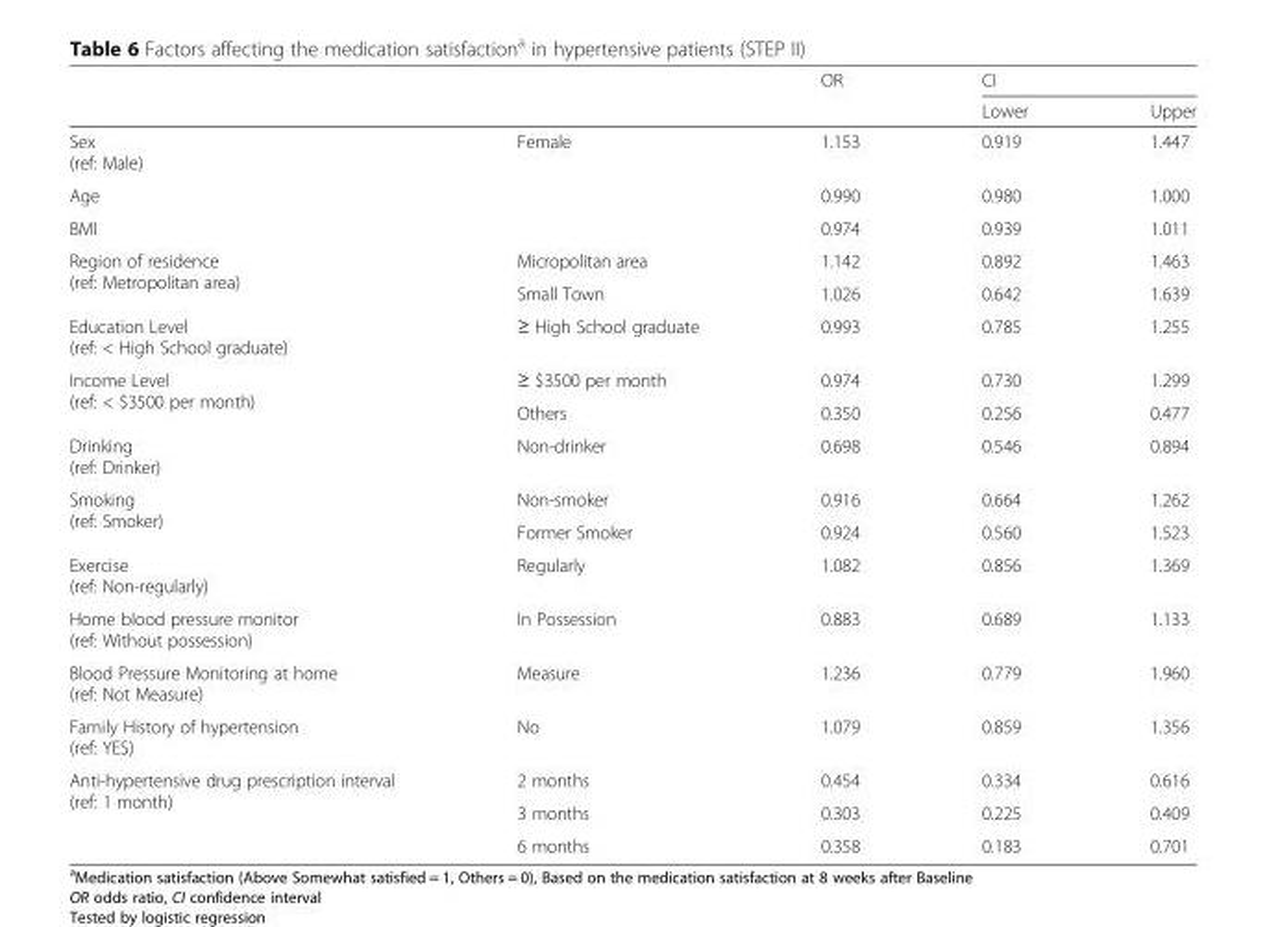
<table><thead><tr><td rowspan="2"></td><td rowspan="2"></td><td rowspan="2">OR</td><td colspan="2">CI</td></tr><tr><td>Lower</td><td>Upper</td></tr></thead><tbody><tr><td>Sex (ref: Male)</td><td>Female</td><td>1.153</td><td>0.919</td><td>1.447</td></tr><tr><td>Age</td><td></td><td>0.990</td><td>0.980</td><td>1.000</td></tr><tr><td>BMI</td><td></td><td>0.974</td><td>0.939</td><td>1.011</td></tr><tr><td rowspan="2">Region of residence (ref: Metropolitan area)</td><td>Micropolitan area</td><td>1.142</td><td>0.892</td><td>1.463</td></tr><tr><td>Small Town</td><td>1.026</td><td>0.642</td><td>1.639</td></tr><tr><td>Education Level (ref: &lt; High School graduate)</td><td>≥ High School graduate</td><td>0.993</td><td>0.785</td><td>1.255</td></tr><tr><td rowspan="2">Income Level (ref: &lt; $3500 per month)</td><td>≥ $3500 per month</td><td>0.974</td><td>0.730</td><td>1.299</td></tr><tr><td>Others</td><td>0.350</td><td>0.256</td><td>0.477</td></tr><tr><td>Drinking (ref: Drinker)</td><td>Non-drinker</td><td>0.698</td><td>0.546</td><td>0.894</td></tr><tr><td rowspan="2">Smoking (ref: Smoker)</td><td>Non-smoker</td><td>0.916</td><td>0.664</td><td>1.262</td></tr><tr><td>Former Smoker</td><td>0.924</td><td>0.560</td><td>1.523</td></tr><tr><td>Exercise (ref: Non-regularly)</td><td>Regularly</td><td>1.082</td><td>0.856</td><td>1.369</td></tr><tr><td>Home blood pressure monitor (ref: Without possession)</td><td>In Possession</td><td>0.883</td><td>0.689</td><td>1.133</td></tr><tr><td>Blood Pressure Monitoring at home (ref: Not Measure)</td><td>Measure</td><td>1.236</td><td>0.779</td><td>1.960</td></tr><tr><td>Family History of hypertension (ref: YES)</td><td>No</td><td>1.079</td><td>0.859</td><td>1.356</td></tr><tr><td rowspan="3">Anti-hypertensive drug prescription interval (ref: 1 month)</td><td>2 months</td><td>0.454</td><td>0.334</td><td>0.616</td></tr><tr><td>3 months</td><td>0.303</td><td>0.225</td><td>0.409</td></tr><tr><td>6 months</td><td>0.358</td><td>0.183</td><td>0.701</td></tr></tbody></table>